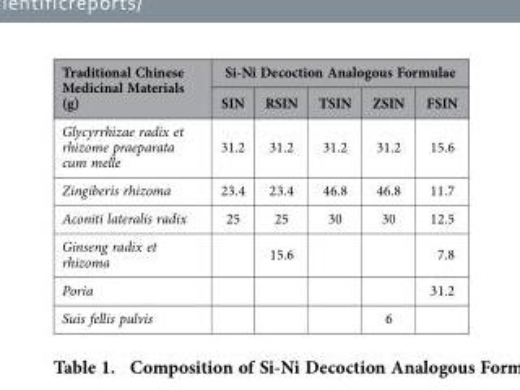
<table><thead><tr><td rowspan="2">Traditional Chinese Medicinal Materials (g)</td><td colspan="5">Si-Ni Decoction Analogous Formulae</td></tr><tr><td>SIN</td><td>RSIN</td><td>TSIN</td><td>ZSIN</td><td>FSIN</td></tr></thead><tbody><tr><td>Glycyrrhizae radix et rhizome praeparata cum melle</td><td>31.2</td><td>31.2</td><td>31.2</td><td>31.2</td><td>15.6</td></tr><tr><td>Zingiberis rhizoma</td><td>23.4</td><td>23.4</td><td>46.8</td><td>46.8</td><td>11.7</td></tr><tr><td>Aconiti lateralis radix</td><td>25</td><td>25</td><td>30</td><td>30</td><td>12.5</td></tr><tr><td>Ginseng radix et rhizoma</td><td></td><td>15.6</td><td></td><td></td><td>7.8</td></tr><tr><td>Poria</td><td></td><td></td><td></td><td></td><td>31.2</td></tr><tr><td>Suis fellis pulvis</td><td></td><td></td><td></td><td>6</td><td></td></tr></tbody></table>